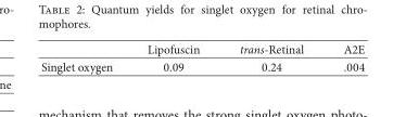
<table><thead><tr><td></td><td>Lipofuscin</td><td>trans-Retinal</td><td>A2E</td></tr></thead><tbody><tr><td>Singlet oxygen</td><td>0.09</td><td>0.24</td><td>.004</td></tr></tbody></table>